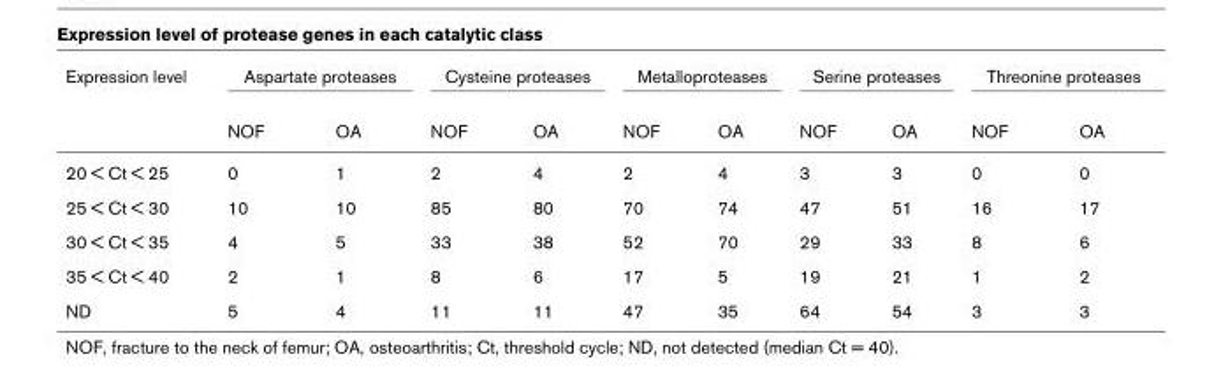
<table><thead><tr><td rowspan="2">Expression level</td><td colspan="2">Aspartate proteases</td><td colspan="2">Cysteine proteases</td><td colspan="2">Metalloproteases</td><td colspan="2">Serine proteases</td><td colspan="2">Threonine proteases</td></tr><tr><td>NOF</td><td>OA</td><td>NOF</td><td>OA</td><td>NOF</td><td>OA</td><td>NOF</td><td>OA</td><td>NOF</td><td>OA</td></tr></thead><tbody><tr><td>20 &lt; Ct &lt; 25</td><td>0</td><td>1</td><td>2</td><td>4</td><td>2</td><td>4</td><td>3</td><td>3</td><td>0</td><td>0</td></tr><tr><td>25 &lt; Ct &lt; 30</td><td>10</td><td>10</td><td>85</td><td>80</td><td>70</td><td>74</td><td>47</td><td>51</td><td>16</td><td>17</td></tr><tr><td>30 &lt; Ct &lt; 35</td><td>4</td><td>5</td><td>33</td><td>38</td><td>52</td><td>70</td><td>29</td><td>33</td><td>8</td><td>6</td></tr><tr><td>35 &lt; Ct &lt; 40</td><td>2</td><td>1</td><td>8</td><td>6</td><td>17</td><td>5</td><td>19</td><td>21</td><td>1</td><td>2</td></tr><tr><td>ND</td><td>5</td><td>4</td><td>11</td><td>11</td><td>47</td><td>35</td><td>64</td><td>54</td><td>3</td><td>3</td></tr></tbody></table>